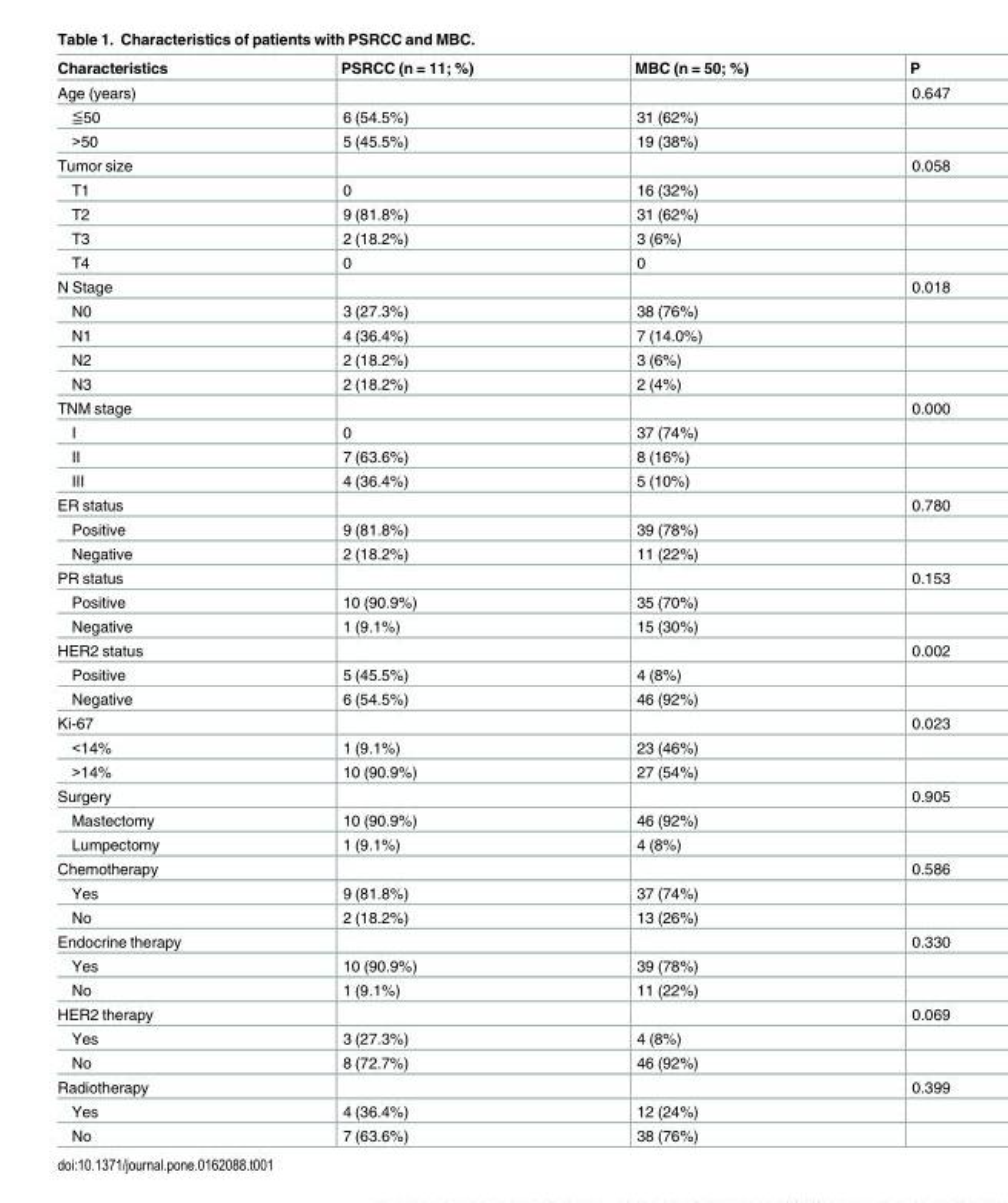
<table><thead><tr><td>Characteristics</td><td>PSRCC (n = 11; %)</td><td>MBC (n = 50; %)</td><td>P</td></tr></thead><tbody><tr><td>Age (years)</td><td></td><td></td><td>0.647</td></tr><tr><td>≦50</td><td>6 (54.5%)</td><td>31 (62%)</td><td></td></tr><tr><td>&gt;50</td><td>5 (45.5%)</td><td>19 (38%)</td><td></td></tr><tr><td>Tumor size</td><td></td><td></td><td>0.058</td></tr><tr><td>T1</td><td>0</td><td>16 (32%)</td><td></td></tr><tr><td>T2</td><td>9 (81.8%)</td><td>31 (62%)</td><td></td></tr><tr><td>T3</td><td>2 (18.2%)</td><td>3 (6%)</td><td></td></tr><tr><td>T4</td><td>0</td><td>0</td><td></td></tr><tr><td>N Stage</td><td></td><td></td><td>0.018</td></tr><tr><td>N0</td><td>3 (27.3%)</td><td>38 (76%)</td><td></td></tr><tr><td>N1</td><td>4 (36.4%)</td><td>7 (14.0%)</td><td></td></tr><tr><td>N2</td><td>2 (18.2%)</td><td>3 (6%)</td><td></td></tr><tr><td>N3</td><td>2 (18.2%)</td><td>2 (4%)</td><td></td></tr><tr><td>TNM stage</td><td></td><td></td><td>0.000</td></tr><tr><td>I</td><td>0</td><td>37 (74%)</td><td></td></tr><tr><td>II</td><td>7 (63.6%)</td><td>8 (16%)</td><td></td></tr><tr><td>III</td><td>4 (36.4%)</td><td>5 (10%)</td><td></td></tr><tr><td>ER status</td><td></td><td></td><td>0.780</td></tr><tr><td>Positive</td><td>9 (81.8%)</td><td>39 (78%)</td><td></td></tr><tr><td>Negative</td><td>2 (18.2%)</td><td>11 (22%)</td><td></td></tr><tr><td>PR status</td><td></td><td></td><td>0.153</td></tr><tr><td>Positive</td><td>10 (90.9%)</td><td>35 (70%)</td><td></td></tr><tr><td>Negative</td><td>1 (9.1%)</td><td>15 (30%)</td><td></td></tr><tr><td>HER2 status</td><td></td><td></td><td>0.002</td></tr><tr><td>Positive</td><td>5 (45.5%)</td><td>4 (8%)</td><td></td></tr><tr><td>Negative</td><td>6 (54.5%)</td><td>46 (92%)</td><td></td></tr><tr><td>Ki-67</td><td></td><td></td><td>0.023</td></tr><tr><td>&lt;14%</td><td>1 (9.1%)</td><td>23 (46%)</td><td></td></tr><tr><td>&gt;14%</td><td>10 (90.9%)</td><td>27 (54%)</td><td></td></tr><tr><td>Surgery</td><td></td><td></td><td>0.905</td></tr><tr><td>Mastectomy</td><td>10 (90.9%)</td><td>46 (92%)</td><td></td></tr><tr><td>Lumpectomy</td><td>1 (9.1%)</td><td>4 (8%)</td><td></td></tr><tr><td>Chemotherapy</td><td></td><td></td><td>0.586</td></tr><tr><td>Yes</td><td>9 (81.8%)</td><td>37 (74%)</td><td></td></tr><tr><td>No</td><td>2 (18.2%)</td><td>13 (26%)</td><td></td></tr><tr><td>Endocrine therapy</td><td></td><td></td><td>0.330</td></tr><tr><td>Yes</td><td>10 (90.9%)</td><td>39 (78%)</td><td></td></tr><tr><td>No</td><td>1 (9.1%)</td><td>11 (22%)</td><td></td></tr><tr><td>HER2 therapy</td><td></td><td></td><td>0.069</td></tr><tr><td>Yes</td><td>3 (27.3%)</td><td>4 (8%)</td><td></td></tr><tr><td>No</td><td>8 (72.7%)</td><td>46 (92%)</td><td></td></tr><tr><td>Radiotherapy</td><td></td><td></td><td>0.399</td></tr><tr><td>Yes</td><td>4 (36.4%)</td><td>12 (24%)</td><td></td></tr><tr><td>No</td><td>7 (63.6%)</td><td>38 (76%)</td><td></td></tr></tbody></table>